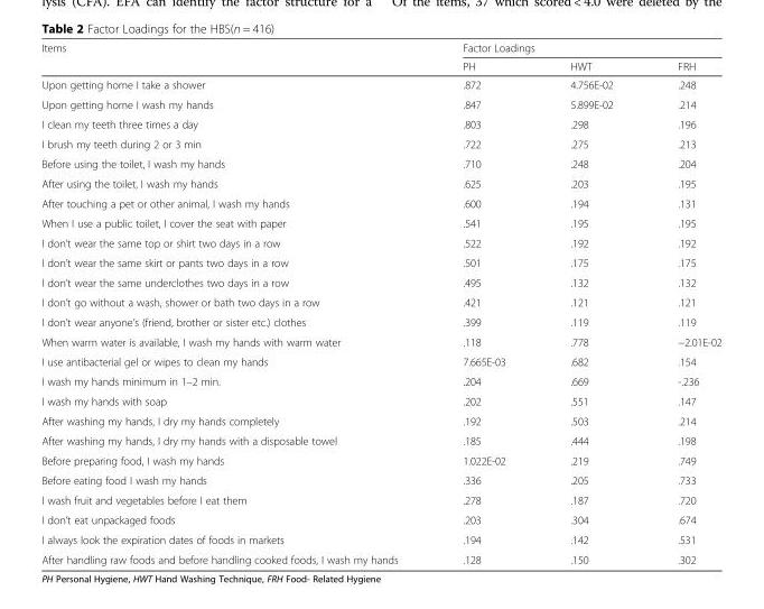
<table><thead><tr><td rowspan="2">Items</td><td colspan="3">Factor Loadings</td></tr><tr><td>PH</td><td>HWT</td><td>FRH</td></tr></thead><tbody><tr><td>Upon getting home I take a shower</td><td>.872</td><td>4.756E-02</td><td>.248</td></tr><tr><td>Upon getting home I wash my hands</td><td>.847</td><td>5.899E-02</td><td>.214</td></tr><tr><td>I clean my teeth three times a day</td><td>.803</td><td>.298</td><td>.196</td></tr><tr><td>I brush my teeth during 2 or 3 min</td><td>.722</td><td>.275</td><td>.213</td></tr><tr><td>Before using the toilet, I wash my hands</td><td>.710</td><td>.248</td><td>.204</td></tr><tr><td>After using the toilet, I wash my hands</td><td>.625</td><td>.203</td><td>.195</td></tr><tr><td>After touching a pet or other animal, I wash my hands</td><td>.600</td><td>.194</td><td>.131</td></tr><tr><td>When I use a public toilet, I cover the seat with paper</td><td>.541</td><td>.195</td><td>.195</td></tr><tr><td>I don’t wear the same top or shirt two days in a row</td><td>.522</td><td>.192</td><td>.192</td></tr><tr><td>I don’t wear the same skirt or pants two days in a row</td><td>.501</td><td>.175</td><td>.175</td></tr><tr><td>I don’t wear the same underclothes two days in a row</td><td>.495</td><td>.132</td><td>.132</td></tr><tr><td>I don’t go without a wash, shower or bath two days in a row</td><td>.421</td><td>.121</td><td>.121</td></tr><tr><td>I don’t wear anyone’s (friend, brother or sister etc.) clothes</td><td>.399</td><td>.119</td><td>.119</td></tr><tr><td>When warm water is available, I wash my hands with warm water</td><td>.118</td><td>.778</td><td>−2.01E-02</td></tr><tr><td>I use antibacterial gel or wipes to clean my hands</td><td>7.665E-03</td><td>.682</td><td>.154</td></tr><tr><td>I wash my hands minimum in 1–2 min.</td><td>.204</td><td>.669</td><td>-.236</td></tr><tr><td>I wash my hands with soap</td><td>.202</td><td>.551</td><td>.147</td></tr><tr><td>After washing my hands, I dry my hands completely</td><td>.192</td><td>.503</td><td>.214</td></tr><tr><td>After washing my hands, I dry my hands with a disposable towel</td><td>.185</td><td>.444</td><td>.198</td></tr><tr><td>Before preparing food, I wash my hands</td><td>1.022E-02</td><td>.219</td><td>.749</td></tr><tr><td>Before eating food I wash my hands</td><td>.336</td><td>.205</td><td>.733</td></tr><tr><td>I wash fruit and vegetables before I eat them</td><td>.278</td><td>.187</td><td>.720</td></tr><tr><td>I don’t eat unpackaged foods</td><td>.203</td><td>.304</td><td>.674</td></tr><tr><td>I always look the expiration dates of foods in markets</td><td>.194</td><td>.142</td><td>.531</td></tr><tr><td>After handling raw foods and before handling cooked foods, I wash my hands</td><td>.128</td><td>.150</td><td>.302</td></tr></tbody></table>